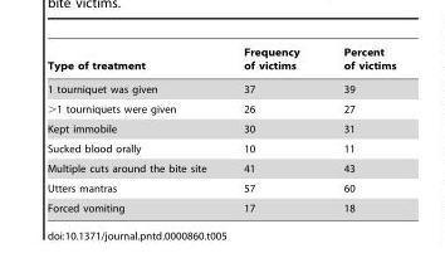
<table><thead><tr><td>Type of treatment</td><td>Frequency of victims</td><td>Percent of victims</td></tr></thead><tbody><tr><td>1 tourniquet was given</td><td>37</td><td>39</td></tr><tr><td>&gt;1 tourniquets were given</td><td>26</td><td>27</td></tr><tr><td>Kept immobile</td><td>30</td><td>31</td></tr><tr><td>Sucked blood orally</td><td>10</td><td>11</td></tr><tr><td>Multiple cuts around the bite site</td><td>41</td><td>43</td></tr><tr><td>Utters mantras</td><td>57</td><td>60</td></tr><tr><td>Forced vomiting</td><td>17</td><td>18</td></tr></tbody></table>